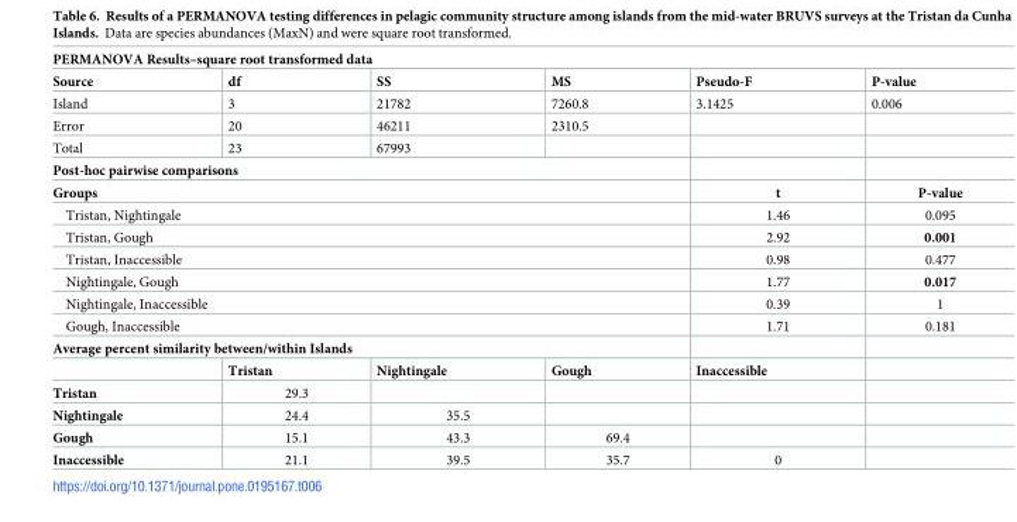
<table><tbody><tr><td colspan="6">PERMANOVA Results–square root transformed data</td></tr><tr><td>Source</td><td>df</td><td>SS</td><td>MS</td><td>Pseudo-F</td><td>P-value</td></tr><tr><td>Island</td><td>3</td><td>21782</td><td>7260.8</td><td>3.1425</td><td>0.006</td></tr><tr><td>Error</td><td>20</td><td>46211</td><td>2310.5</td><td></td><td></td></tr><tr><td>Total</td><td>23</td><td>67993</td><td></td><td></td><td></td></tr><tr><td colspan="6">Post-hoc pairwise comparisons</td></tr><tr><td colspan="4">Groups</td><td>t</td><td>P-value</td></tr><tr><td colspan="4">Tristan, Nightingale</td><td>1.46</td><td>0.095</td></tr><tr><td colspan="4">Tristan, Gough</td><td>2.92</td><td>0.001</td></tr><tr><td colspan="4">Tristan, Inaccessible</td><td>0.98</td><td>0.477</td></tr><tr><td colspan="4">Nightingale, Gough</td><td>1.77</td><td>0.017</td></tr><tr><td colspan="4">Nightingale, Inaccessible</td><td>0.39</td><td>1</td></tr><tr><td colspan="4">Gough, Inaccessible</td><td>1.71</td><td>0.181</td></tr><tr><td colspan="6">Average percent similarity between/within Islands</td></tr><tr><td></td><td>Tristan</td><td>Nightingale</td><td>Gough</td><td>Inaccessible</td><td></td></tr><tr><td>Tristan</td><td>29.3</td><td></td><td></td><td></td><td></td></tr><tr><td>Nightingale</td><td>24.4</td><td>35.5</td><td></td><td></td><td></td></tr><tr><td>Gough</td><td>15.1</td><td>43.3</td><td>69.4</td><td></td><td></td></tr><tr><td>Inaccessible</td><td>21.1</td><td>39.5</td><td>35.7</td><td>0</td><td></td></tr></tbody></table>